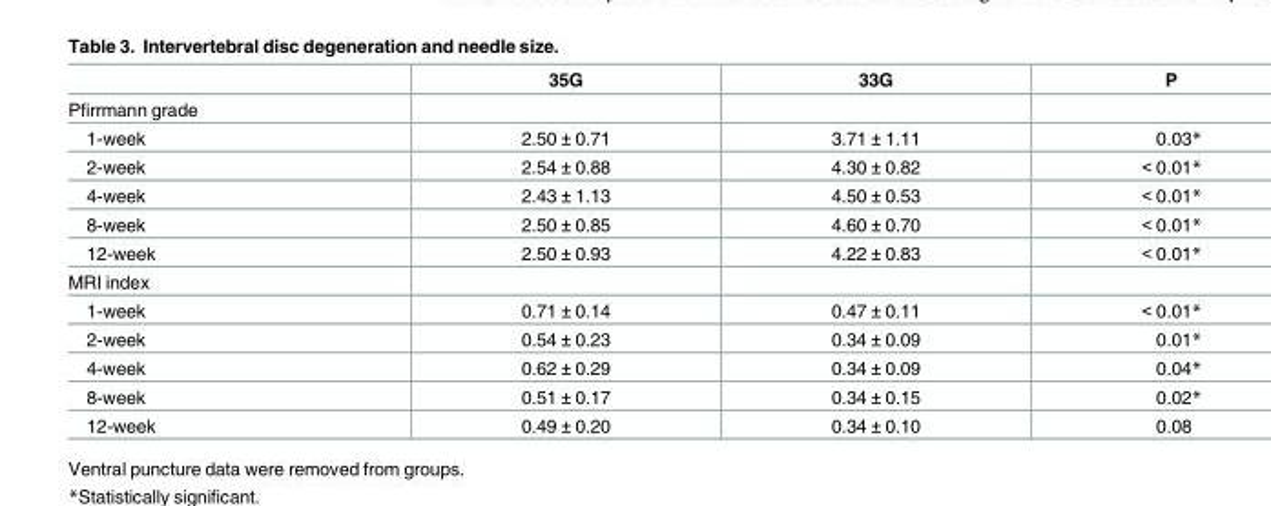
<table><thead><tr><td></td><td>35G</td><td>33G</td><td>P</td></tr></thead><tbody><tr><td colspan="4">Pfirrmann grade</td></tr><tr><td>1-week</td><td>2.50 ± 0.71</td><td>3.71 ± 1.11</td><td>0.03*</td></tr><tr><td>2-week</td><td>2.54 ± 0.88</td><td>4.30 ± 0.82</td><td>&lt; 0.01*</td></tr><tr><td>4-week</td><td>2.43 ± 1.13</td><td>4.50 ± 0.53</td><td>&lt; 0.01*</td></tr><tr><td>8-week</td><td>2.50 ± 0.85</td><td>4.60 ± 0.70</td><td>&lt; 0.01*</td></tr><tr><td>12-week</td><td>2.50 ± 0.93</td><td>4.22 ± 0.83</td><td>&lt; 0.01*</td></tr><tr><td colspan="4">MRI index</td></tr><tr><td>1-week</td><td>0.71 ± 0.14</td><td>0.47 ± 0.11</td><td>&lt; 0.01*</td></tr><tr><td>2-week</td><td>0.54 ± 0.23</td><td>0.34 ± 0.09</td><td>0.01*</td></tr><tr><td>4-week</td><td>0.62 ± 0.29</td><td>0.34 ± 0.09</td><td>0.04*</td></tr><tr><td>8-week</td><td>0.51 ± 0.17</td><td>0.34 ± 0.15</td><td>0.02*</td></tr><tr><td>12-week</td><td>0.49 ± 0.20</td><td>0.34 ± 0.10</td><td>0.08</td></tr></tbody></table>